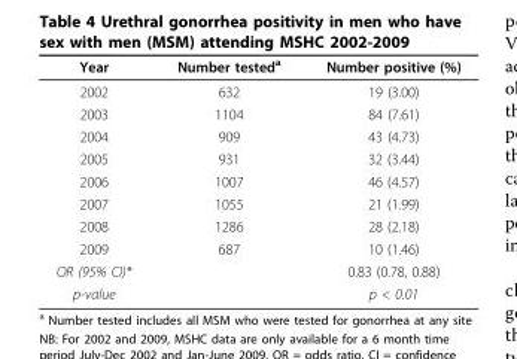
<table><thead><tr><td>Year</td><td>Number tested<sup>a</sup></td><td>Number positive (%)</td></tr></thead><tbody><tr><td>2002</td><td>632</td><td>19 (3.00)</td></tr><tr><td>2003</td><td>1104</td><td>84 (7.61)</td></tr><tr><td>2004</td><td>909</td><td>43 (4.73)</td></tr><tr><td>2005</td><td>931</td><td>32 (3.44)</td></tr><tr><td>2006</td><td>1007</td><td>46 (4.57)</td></tr><tr><td>2007</td><td>1055</td><td>21 (1.99)</td></tr><tr><td>2008</td><td>1286</td><td>28 (2.18)</td></tr><tr><td>2009</td><td>687</td><td>10 (1.46)</td></tr><tr><td>OR (95% CI)*</td><td></td><td>0.83 (0.78, 0.88)</td></tr><tr><td>p-value</td><td></td><td>p &lt; 0.01</td></tr></tbody></table>